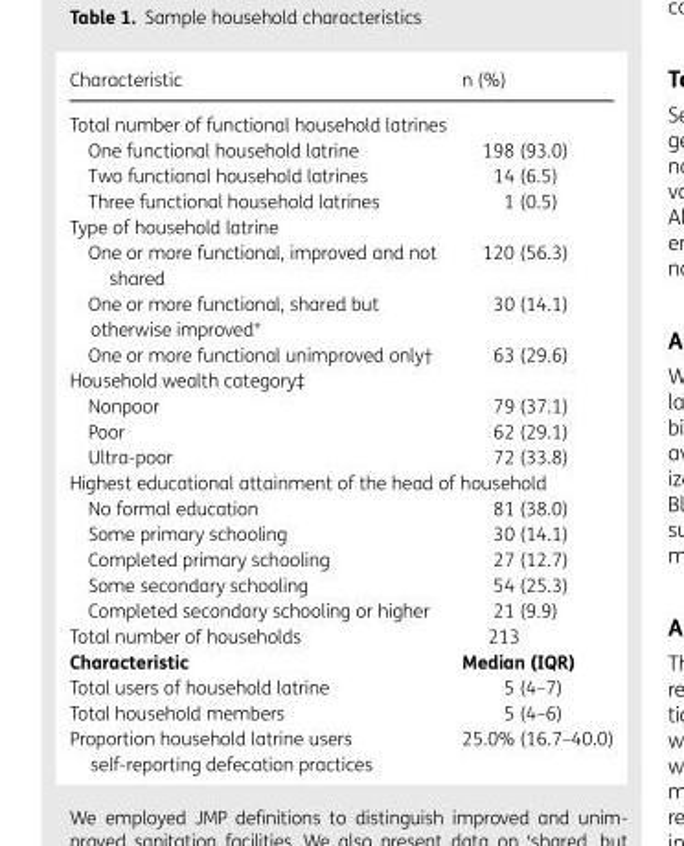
<table><thead><tr><td>Characteristic</td><td>n (%)</td></tr></thead><tbody><tr><td colspan="2">Total number of functional household latrines</td></tr><tr><td>One functional household latrine</td><td>198 (93.0)</td></tr><tr><td>Two functional household latrines</td><td>14 (6.5)</td></tr><tr><td>Three functional household latrines</td><td>1 (0.5)</td></tr><tr><td colspan="2">Type of household latrine</td></tr><tr><td>One or more functional, improved and not shared</td><td>120 (56.3)</td></tr><tr><td>One or more functional, shared but otherwise improved*</td><td>30 (14.1)</td></tr><tr><td>One or more functional unimproved only†</td><td>63 (29.6)</td></tr><tr><td colspan="2">Household wealth category‡</td></tr><tr><td>Nonpoor</td><td>79 (37.1)</td></tr><tr><td>Poor</td><td>62 (29.1)</td></tr><tr><td>Ultra-poor</td><td>72 (33.8)</td></tr><tr><td colspan="2">Highest educational attainment of the head of household</td></tr><tr><td>No formal education</td><td>81 (38.0)</td></tr><tr><td>Some primary schooling</td><td>30 (14.1)</td></tr><tr><td>Completed primary schooling</td><td>27 (12.7)</td></tr><tr><td>Some secondary schooling</td><td>54 (25.3)</td></tr><tr><td>Completed secondary schooling or higher</td><td>21 (9.9)</td></tr><tr><td>Total number of households</td><td>213</td></tr><tr><td>Characteristic</td><td>Median (IQR)</td></tr><tr><td>Total users of household latrine</td><td>5 (4–7)</td></tr><tr><td>Total household members</td><td>5 (4–6)</td></tr><tr><td>Proportion household latrine users self-reporting defecation practices</td><td>25.0% (16.7–40.0)</td></tr></tbody></table>